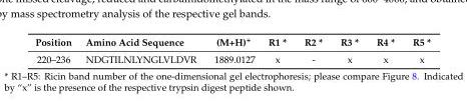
<table><thead><tr><td>Position</td><td>Amino Acid Sequence</td><td>(M+H)<sup>+</sup></td><td>R1 *</td><td>R2 *</td><td>R3 *</td><td>R4 *</td><td>R5 *</td></tr></thead><tbody><tr><td>220–236</td><td>NDGTILNLYNGLVLDVR</td><td>1889.0127</td><td>x</td><td>-</td><td>x</td><td>x</td><td>x</td></tr></tbody></table>